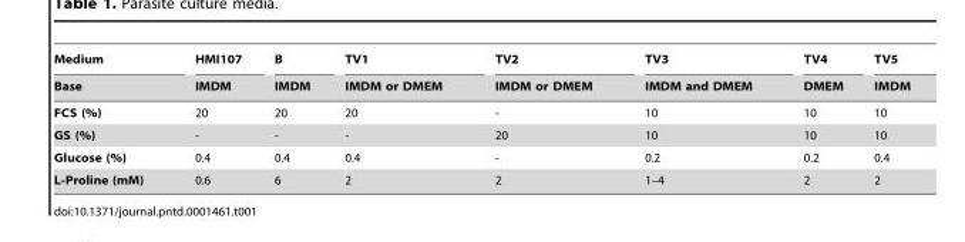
<table><thead><tr><td rowspan="2">Medium Base</td><td rowspan="2">HMI107 IMDM</td><td rowspan="2">B IMDM</td><td rowspan="2">TV1 IMDM or DMEM</td><td rowspan="2">TV2 IMDM or DMEM</td><td rowspan="2">TV3 IMDM and DMEM</td><td rowspan="2">TV4 DMEM</td><td rowspan="2">TV5 IMDM</td></tr><tr></tr></thead><tbody><tr><td>FCS (%)</td><td>20</td><td>20</td><td>20</td><td>-</td><td>10</td><td>10</td><td>10</td></tr><tr><td>GS (%)</td><td>-</td><td>-</td><td>-</td><td>20</td><td>10</td><td>10</td><td>10</td></tr><tr><td>Glucose (%)</td><td>0.4</td><td>0.4</td><td>0.4</td><td>-</td><td>0.2</td><td>0.2</td><td>0.4</td></tr><tr><td>L-Proline (mM)</td><td>0.6</td><td>6</td><td>2</td><td>2</td><td>1–4</td><td>2</td><td>2</td></tr></tbody></table>